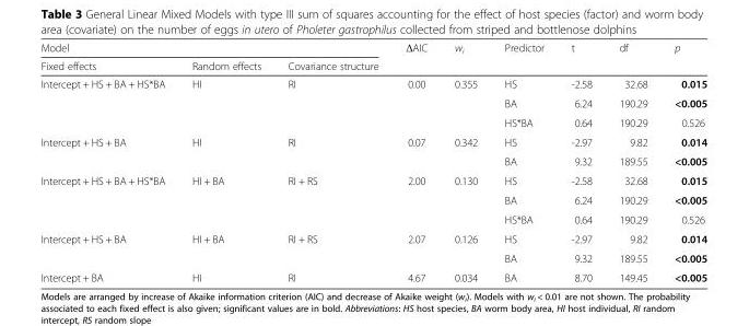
<table><thead><tr><td colspan="3">Model</td><td rowspan="2">ΔAIC</td><td rowspan="2">w<sub>i</sub></td><td rowspan="2">Predictor</td><td rowspan="2">t</td><td rowspan="2">df</td><td rowspan="2">p</td></tr><tr><td>Fixed effects</td><td>Random effects</td><td>Covariance structure</td></tr></thead><tbody><tr><td rowspan="3">Intercept + HS + BA + HS*BA</td><td rowspan="3">HI</td><td rowspan="3">RI</td><td rowspan="3">0.00</td><td rowspan="3">0.355</td><td>HS</td><td>-2.58</td><td>32.68</td><td>0.015</td></tr><tr><td>BA</td><td>6.24</td><td>190.29</td><td>&lt;0.005</td></tr><tr><td>HS*BA</td><td>0.64</td><td>190.29</td><td>0.526</td></tr><tr><td rowspan="2">Intercept + HS + BA</td><td rowspan="2">HI</td><td rowspan="2">RI</td><td rowspan="2">0.07</td><td rowspan="2">0.342</td><td>HS</td><td>-2.97</td><td>9.82</td><td>0.014</td></tr><tr><td>BA</td><td>9.32</td><td>189.55</td><td>&lt;0.005</td></tr><tr><td rowspan="3">Intercept + HS + BA + HS*BA</td><td rowspan="3">HI + BA</td><td rowspan="3">RI + RS</td><td rowspan="3">2.00</td><td rowspan="3">0.130</td><td>HS</td><td>-2.58</td><td>32.68</td><td>0.015</td></tr><tr><td>BA</td><td>6.24</td><td>190.29</td><td>&lt;0.005</td></tr><tr><td>HS*BA</td><td>0.64</td><td>190.29</td><td>0.526</td></tr><tr><td rowspan="2">Intercept + HS + BA</td><td rowspan="2">HI + BA</td><td rowspan="2">RI + RS</td><td rowspan="2">2.07</td><td rowspan="2">0.126</td><td>HS</td><td>-2.97</td><td>9.82</td><td>0.014</td></tr><tr><td>BA</td><td>9.32</td><td>189.55</td><td>&lt;0.005</td></tr><tr><td>Intercept + BA</td><td>HI</td><td>RI</td><td>4.67</td><td>0.034</td><td>BA</td><td>8.70</td><td>149.45</td><td>&lt;0.005</td></tr></tbody></table>